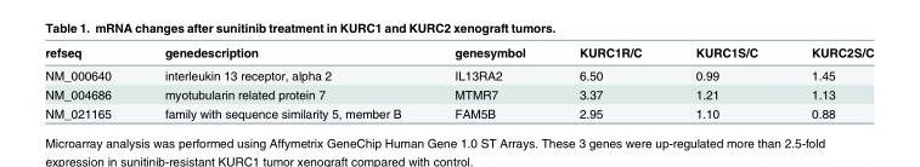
<table><thead><tr><td>refseq</td><td>genedescription</td><td>genesymbol</td><td>KURC1R/C</td><td>KURC1S/C</td><td>KURC2S/C</td></tr></thead><tbody><tr><td>NM_000640</td><td>interleukin 13 receptor, alpha 2</td><td>IL13RA2</td><td>6.50</td><td>0.99</td><td>1.45</td></tr><tr><td>NM_004686</td><td>myotubularin related protein 7</td><td>MTMR7</td><td>3.37</td><td>1.21</td><td>1.13</td></tr><tr><td>NM_021165</td><td>family with sequence similarity 5, member B</td><td>FAM5B</td><td>2.95</td><td>1.10</td><td>0.88</td></tr></tbody></table>